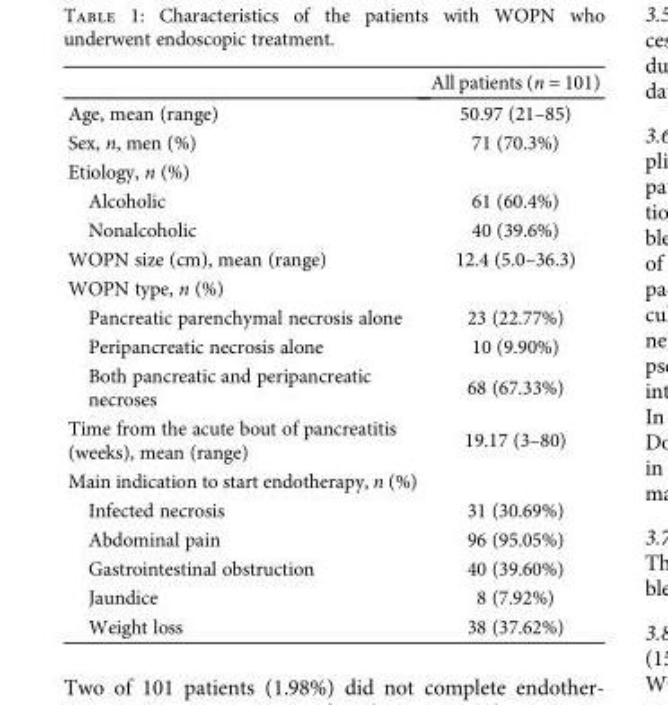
<table><thead><tr><td></td><td>All patients (n = 101)</td></tr></thead><tbody><tr><td>Age, mean (range)</td><td>50.97 (21–85)</td></tr><tr><td>Sex, n, men (%)</td><td>71 (70.3%)</td></tr><tr><td colspan="2">Etiology, n (%)</td></tr><tr><td>Alcoholic</td><td>61 (60.4%)</td></tr><tr><td>Nonalcoholic</td><td>40 (39.6%)</td></tr><tr><td>WOPN size (cm), mean (range)</td><td>12.4 (5.0–36.3)</td></tr><tr><td colspan="2">WOPN type, n (%)</td></tr><tr><td>Pancreatic parenchymal necrosis alone</td><td>23 (22.77%)</td></tr><tr><td>Peripancreatic necrosis alone</td><td>10 (9.90%)</td></tr><tr><td>Both pancreatic and peripancreatic necroses</td><td>68 (67.33%)</td></tr><tr><td>Time from the acute bout of pancreatitis (weeks), mean (range)</td><td>19.17 (3–80)</td></tr><tr><td colspan="2">Main indication to start endotherapy, n (%)</td></tr><tr><td>Infected necrosis</td><td>31 (30.69%)</td></tr><tr><td>Abdominal pain</td><td>96 (95.05%)</td></tr><tr><td>Gastrointestinal obstruction</td><td>40 (39.60%)</td></tr><tr><td>Jaundice</td><td>8 (7.92%)</td></tr><tr><td>Weight loss</td><td>38 (37.62%)</td></tr></tbody></table>